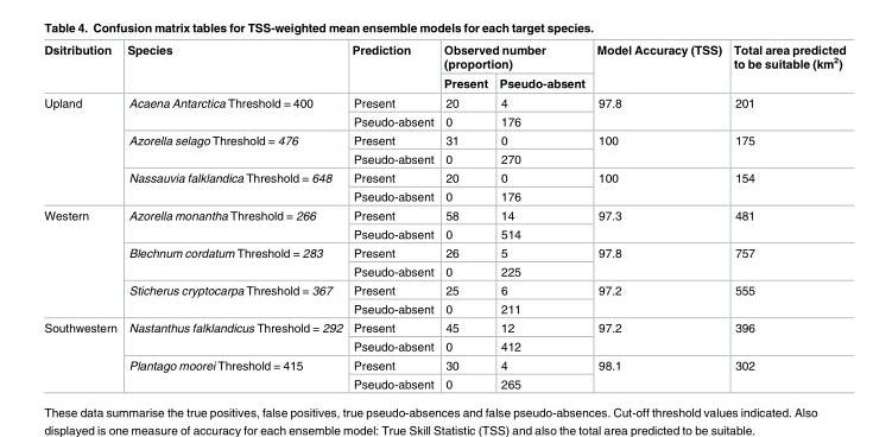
<table><thead><tr><td rowspan="2">Dsitribution</td><td rowspan="2">Species</td><td rowspan="2">Prediction</td><td colspan="2">Observed number (proportion)</td><td rowspan="2">Model Accuracy (TSS)</td><td rowspan="2">Total area predicted to be suitable (km<sup>2</sup>)</td></tr><tr><td>Present</td><td>Pseudo-absent</td></tr></thead><tbody><tr><td rowspan="6">Upland</td><td rowspan="2">Acaena Antarctica Threshold = 400</td><td>Present</td><td>20</td><td>4</td><td rowspan="2">97.8</td><td rowspan="2">201</td></tr><tr><td>Pseudo-absent</td><td>0</td><td>176</td></tr><tr><td rowspan="2">Azorella selago Threshold = 476</td><td>Present</td><td>31</td><td>0</td><td rowspan="2">100</td><td rowspan="2">175</td></tr><tr><td>Pseudo-absent</td><td>0</td><td>270</td></tr><tr><td rowspan="2">Nassauvia falklandica Threshold = 648</td><td>Present</td><td>20</td><td>0</td><td rowspan="2">100</td><td rowspan="2">154</td></tr><tr><td>Pseudo-absent</td><td>0</td><td>176</td></tr><tr><td rowspan="6">Western</td><td rowspan="2">Azorella monantha Threshold = 266</td><td>Present</td><td>58</td><td>14</td><td rowspan="2">97.3</td><td rowspan="2">481</td></tr><tr><td>Pseudo-absent</td><td>0</td><td>514</td></tr><tr><td rowspan="2">Blechnum cordatum Threshold = 283</td><td>Present</td><td>26</td><td>5</td><td rowspan="2">97.8</td><td rowspan="2">757</td></tr><tr><td>Pseudo-absent</td><td>0</td><td>225</td></tr><tr><td rowspan="2">Sticherus cryptocarpa Threshold = 367</td><td>Present</td><td>25</td><td>6</td><td rowspan="2">97.2</td><td rowspan="2">555</td></tr><tr><td>Pseudo-absent</td><td>0</td><td>211</td></tr><tr><td rowspan="4">Southwestern</td><td rowspan="2">Nastanthus falklandicus Threshold = 292</td><td>Present</td><td>45</td><td>12</td><td rowspan="2">97.2</td><td rowspan="2">396</td></tr><tr><td>Pseudo-absent</td><td>0</td><td>412</td></tr><tr><td rowspan="2">Plantago moorei Threshold = 415</td><td>Present</td><td>30</td><td>4</td><td rowspan="2">98.1</td><td rowspan="2">302</td></tr><tr><td>Pseudo-absent</td><td>0</td><td>265</td></tr></tbody></table>